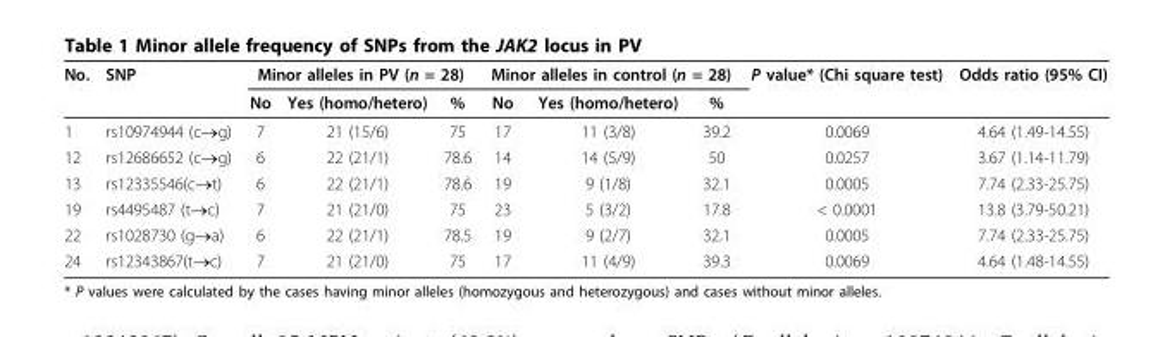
<table><thead><tr><td rowspan="2">No.</td><td rowspan="2">SNP</td><td colspan="3">Minor alleles in PV (n = 28)</td><td colspan="3">Minor alleles in control (n = 28)</td><td rowspan="2">P value* (Chi square test)</td><td rowspan="2">Odds ratio (95% CI)</td></tr><tr><td>No</td><td>Yes (homo/hetero)</td><td>%</td><td>No</td><td>Yes (homo/hetero)</td><td>%</td></tr></thead><tbody><tr><td>1</td><td>rs10974944 (c→g)</td><td>7</td><td>21 (15/6)</td><td>75</td><td>17</td><td>11 (3/8)</td><td>39.2</td><td>0.0069</td><td>4.64 (1.49-14.55)</td></tr><tr><td>12</td><td>rs12686652 (c→g)</td><td>6</td><td>22 (21/1)</td><td>78.6</td><td>14</td><td>14 (5/9)</td><td>50</td><td>0.0257</td><td>3.67 (1.14-11.79)</td></tr><tr><td>13</td><td>rs12335546(c→t)</td><td>6</td><td>22 (21/1)</td><td>78.6</td><td>19</td><td>9 (1/8)</td><td>32.1</td><td>0.0005</td><td>7.74 (2.33-25.75)</td></tr><tr><td>19</td><td>rs4495487 (t→c)</td><td>7</td><td>21 (21/0)</td><td>75</td><td>23</td><td>5 (3/2)</td><td>17.8</td><td>&lt; 0.0001</td><td>13.8 (3.79-50.21)</td></tr><tr><td>22</td><td>rs1028730 (g→a)</td><td>6</td><td>22 (21/1)</td><td>78.5</td><td>19</td><td>9 (2/7)</td><td>32.1</td><td>0.0005</td><td>7.74 (2.33-25.75)</td></tr><tr><td>24</td><td>rs12343867(t→c)</td><td>7</td><td>21 (21/0)</td><td>75</td><td>17</td><td>11 (4/9)</td><td>39.3</td><td>0.0069</td><td>4.64 (1.48-14.55)</td></tr></tbody></table>